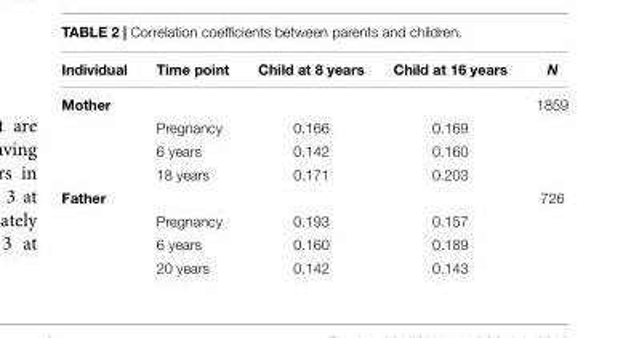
<table><thead><tr><td>Individual</td><td>Time point</td><td>Child at 8 years</td><td>Child at 16 years</td><td>N</td></tr></thead><tbody><tr><td rowspan="4">Mother</td><td></td><td></td><td></td><td>1859</td></tr><tr><td>Pregnancy</td><td>0.166</td><td>0.169</td><td></td></tr><tr><td>6 years</td><td>0.142</td><td>0.160</td><td></td></tr><tr><td>18 years</td><td>0.171</td><td>0.203</td><td></td></tr><tr><td rowspan="4">Father</td><td></td><td></td><td></td><td>726</td></tr><tr><td>Pregnancy</td><td>0.193</td><td>0.157</td><td></td></tr><tr><td>6 years</td><td>0.160</td><td>0.189</td><td></td></tr><tr><td>20 years</td><td>0.142</td><td>0.143</td><td></td></tr></tbody></table>